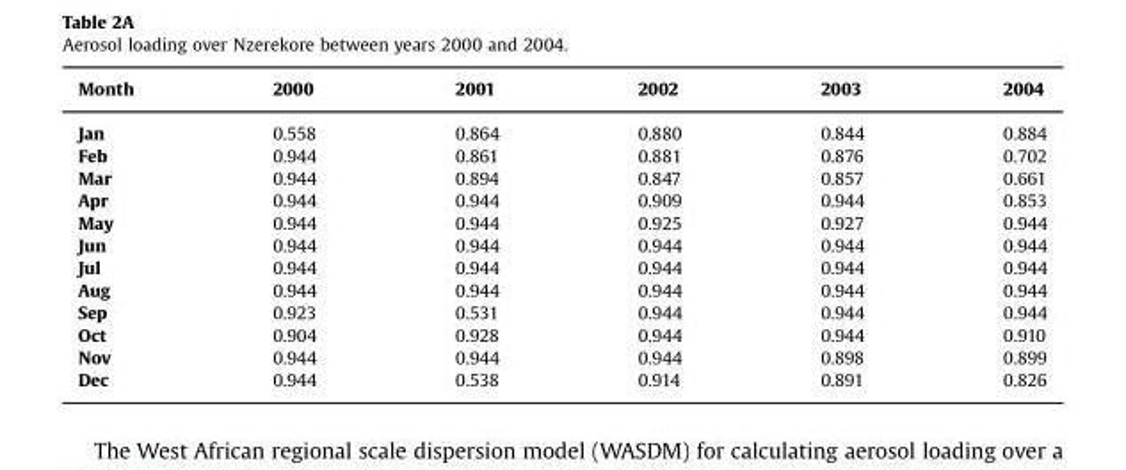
<table><thead><tr><td>Month</td><td>2000</td><td>2001</td><td>2002</td><td>2003</td><td>2004</td></tr></thead><tbody><tr><td>Jan</td><td>0.558</td><td>0.864</td><td>0.880</td><td>0.844</td><td>0.884</td></tr><tr><td>Feb</td><td>0.944</td><td>0.861</td><td>0.881</td><td>0.876</td><td>0.702</td></tr><tr><td>Mar</td><td>0.944</td><td>0.894</td><td>0.847</td><td>0.857</td><td>0.661</td></tr><tr><td>Apr</td><td>0.944</td><td>0.944</td><td>0.909</td><td>0.944</td><td>0.853</td></tr><tr><td>May</td><td>0.944</td><td>0.944</td><td>0.925</td><td>0.927</td><td>0.944</td></tr><tr><td>Jun</td><td>0.944</td><td>0.944</td><td>0.944</td><td>0.944</td><td>0.944</td></tr><tr><td>Jul</td><td>0.944</td><td>0.944</td><td>0.944</td><td>0.944</td><td>0.944</td></tr><tr><td>Aug</td><td>0.944</td><td>0.944</td><td>0.944</td><td>0.944</td><td>0.944</td></tr><tr><td>Sep</td><td>0.923</td><td>0.531</td><td>0.944</td><td>0.944</td><td>0.944</td></tr><tr><td>Oct</td><td>0.904</td><td>0.928</td><td>0.944</td><td>0.944</td><td>0.910</td></tr><tr><td>Nov</td><td>0.944</td><td>0.944</td><td>0.944</td><td>0.898</td><td>0.899</td></tr><tr><td>Dec</td><td>0.944</td><td>0.538</td><td>0.914</td><td>0.891</td><td>0.826</td></tr></tbody></table>